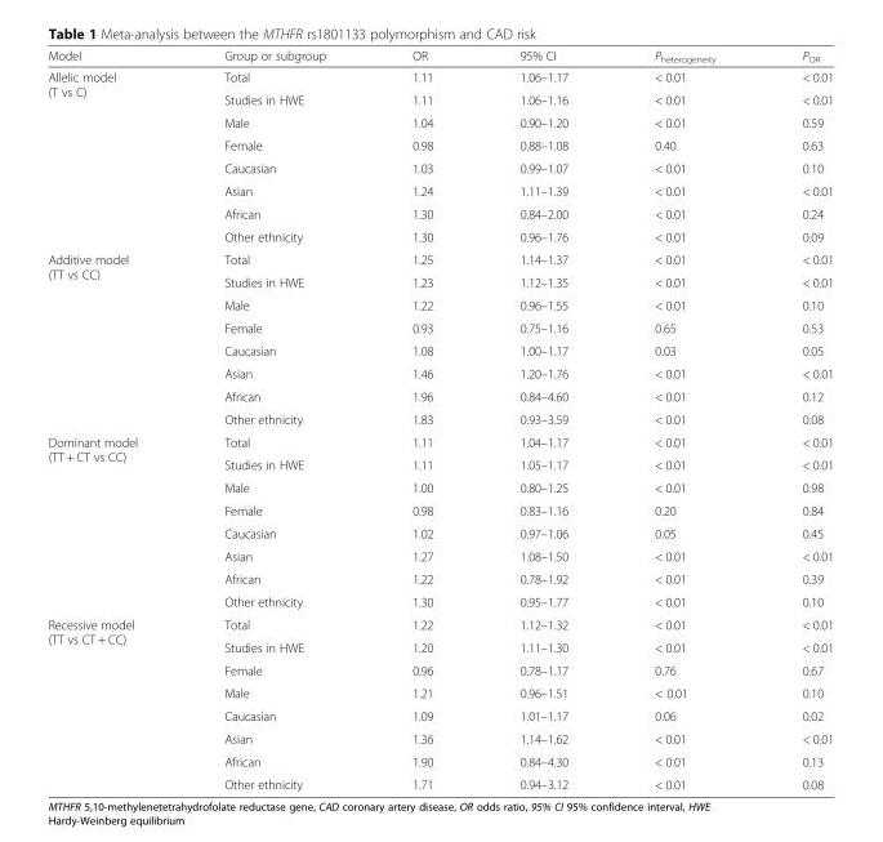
<table><thead><tr><td>Model</td><td>Group or subgroup</td><td>OR</td><td>95% CI</td><td>P<sub>heterogeneity</sub></td><td>P<sub>OR</sub></td></tr></thead><tbody><tr><td rowspan="8">Allelic model (T vs C)</td><td>Total</td><td>1.11</td><td>1.06–1.17</td><td>&lt; 0.01</td><td>&lt; 0.01</td></tr><tr><td>Studies in HWE</td><td>1.11</td><td>1.06–1.16</td><td>&lt; 0.01</td><td>&lt; 0.01</td></tr><tr><td>Male</td><td>1.04</td><td>0.90–1.20</td><td>&lt; 0.01</td><td>0.59</td></tr><tr><td>Female</td><td>0.98</td><td>0.88–1.08</td><td>0.40</td><td>0.63</td></tr><tr><td>Caucasian</td><td>1.03</td><td>0.99–1.07</td><td>&lt; 0.01</td><td>0.10</td></tr><tr><td>Asian</td><td>1.24</td><td>1.11–1.39</td><td>&lt; 0.01</td><td>&lt; 0.01</td></tr><tr><td>African</td><td>1.30</td><td>0.84–2.00</td><td>&lt; 0.01</td><td>0.24</td></tr><tr><td>Other ethnicity</td><td>1.30</td><td>0.96–1.76</td><td>&lt; 0.01</td><td>0.09</td></tr><tr><td rowspan="8">Additive model (TT vs CC)</td><td>Total</td><td>1.25</td><td>1.14–1.37</td><td>&lt; 0.01</td><td>&lt; 0.01</td></tr><tr><td>Studies in HWE</td><td>1.23</td><td>1.12–1.35</td><td>&lt; 0.01</td><td>&lt; 0.01</td></tr><tr><td>Male</td><td>1.22</td><td>0.96–1.55</td><td>&lt; 0.01</td><td>0.10</td></tr><tr><td>Female</td><td>0.93</td><td>0.75–1.16</td><td>0.65</td><td>0.53</td></tr><tr><td>Caucasian</td><td>1.08</td><td>1.00–1.17</td><td>0.03</td><td>0.05</td></tr><tr><td>Asian</td><td>1.46</td><td>1.20–1.76</td><td>&lt; 0.01</td><td>&lt; 0.01</td></tr><tr><td>African</td><td>1.96</td><td>0.84–4.60</td><td>&lt; 0.01</td><td>0.12</td></tr><tr><td>Other ethnicity</td><td>1.83</td><td>0.93–3.59</td><td>&lt; 0.01</td><td>0.08</td></tr><tr><td rowspan="8">Dominant model (TT + CT vs CC)</td><td>Total</td><td>1.11</td><td>1.04–1.17</td><td>&lt; 0.01</td><td>&lt; 0.01</td></tr><tr><td>Studies in HWE</td><td>1.11</td><td>1.05–1.17</td><td>&lt; 0.01</td><td>&lt; 0.01</td></tr><tr><td>Male</td><td>1.00</td><td>0.80–1.25</td><td>&lt; 0.01</td><td>0.98</td></tr><tr><td>Female</td><td>0.98</td><td>0.83–1.16</td><td>0.20</td><td>0.84</td></tr><tr><td>Caucasian</td><td>1.02</td><td>0.97–1.06</td><td>0.05</td><td>0.45</td></tr><tr><td>Asian</td><td>1.27</td><td>1.08–1.50</td><td>&lt; 0.01</td><td>&lt; 0.01</td></tr><tr><td>African</td><td>1.22</td><td>0.78–1.92</td><td>&lt; 0.01</td><td>0.39</td></tr><tr><td>Other ethnicity</td><td>1.30</td><td>0.95–1.77</td><td>&lt; 0.01</td><td>0.10</td></tr><tr><td rowspan="8">Recessive model (TT vs CT + CC)</td><td>Total</td><td>1.22</td><td>1.12–1.32</td><td>&lt; 0.01</td><td>&lt; 0.01</td></tr><tr><td>Studies in HWE</td><td>1.20</td><td>1.11–1.30</td><td>&lt; 0.01</td><td>&lt; 0.01</td></tr><tr><td>Female</td><td>0.96</td><td>0.78–1.17</td><td>0.76</td><td>0.67</td></tr><tr><td>Male</td><td>1.21</td><td>0.96–1.51</td><td>&lt; 0.01</td><td>0.10</td></tr><tr><td>Caucasian</td><td>1.09</td><td>1.01–1.17</td><td>0.06</td><td>0.02</td></tr><tr><td>Asian</td><td>1.36</td><td>1.14–1.62</td><td>&lt; 0.01</td><td>&lt; 0.01</td></tr><tr><td>African</td><td>1.90</td><td>0.84–4.30</td><td>&lt; 0.01</td><td>0.13</td></tr><tr><td>Other ethnicity</td><td>1.71</td><td>0.94–3.12</td><td>&lt; 0.01</td><td>0.08</td></tr></tbody></table>